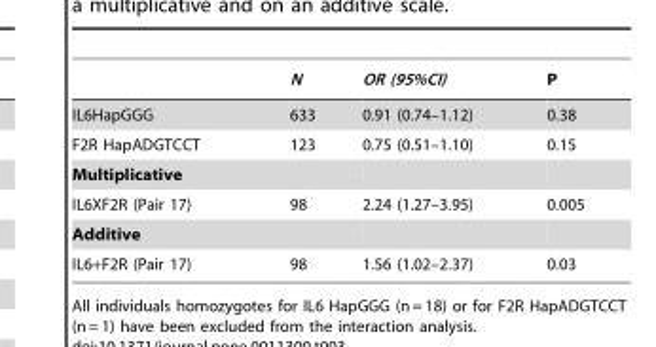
<table><thead><tr><td></td><td>N</td><td>OR (95%CI)</td><td>P</td></tr></thead><tbody><tr><td>IL6HapGGG</td><td>633</td><td>0.91 (0.74–1.12)</td><td>0.38</td></tr><tr><td>F2R HapADGTCCT</td><td>123</td><td>0.75 (0.51–1.10)</td><td>0.15</td></tr><tr><td colspan="4">Multiplicative</td></tr><tr><td>IL6XF2R (Pair 17)</td><td>98</td><td>2.24 (1.27–3.95)</td><td>0.005</td></tr><tr><td colspan="4">Additive</td></tr><tr><td>IL6+F2R (Pair 17)</td><td>98</td><td>1.56 (1.02–2.37)</td><td>0.03</td></tr></tbody></table>